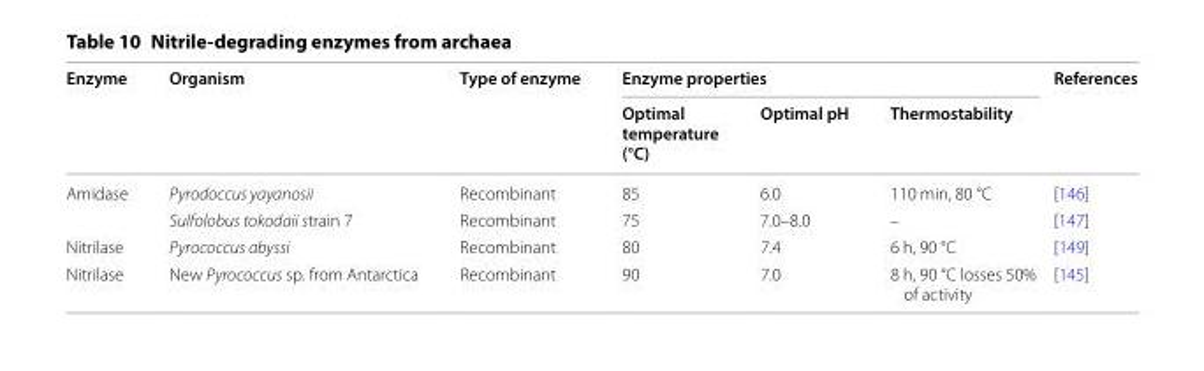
<table><thead><tr><td rowspan="2">Enzyme</td><td rowspan="2">Organism</td><td rowspan="2">Type of enzyme</td><td colspan="3">Enzyme properties</td><td rowspan="2">References</td></tr><tr><td>Optimal temperature (°C)</td><td>Optimal pH</td><td>Thermostability</td></tr></thead><tbody><tr><td rowspan="2">Amidase</td><td>Pyrodoccus yayanosii</td><td>Recombinant</td><td>85</td><td>6.0</td><td>110 min, 80 °C</td><td>[146]</td></tr><tr><td>Sulfolobus tokodaii strain 7</td><td>Recombinant</td><td>75</td><td>7.0–8.0</td><td>–</td><td>[147]</td></tr><tr><td>Nitrilase</td><td>Pyrococcus abyssi</td><td>Recombinant</td><td>80</td><td>7.4</td><td>6 h, 90 °C</td><td>[149]</td></tr><tr><td>Nitrilase</td><td>New Pyrococcus sp. from Antarctica</td><td>Recombinant</td><td>90</td><td>7.0</td><td>8 h, 90 °C losses 50% of activity</td><td>[145]</td></tr></tbody></table>